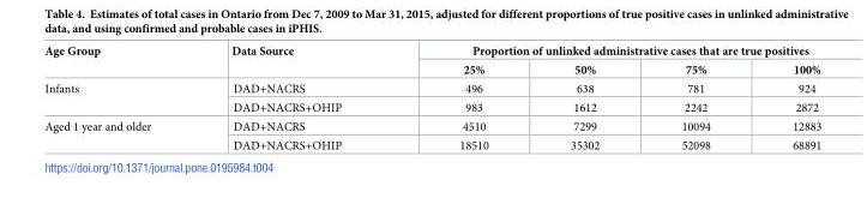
<table><thead><tr><td rowspan="2">Age Group</td><td rowspan="2">Data Source</td><td colspan="4">Proportion of unlinked administrative cases that are true positives</td></tr><tr><td>25%</td><td>50%</td><td>75%</td><td>100%</td></tr></thead><tbody><tr><td rowspan="2">Infants</td><td>DAD+NACRS</td><td>496</td><td>638</td><td>781</td><td>924</td></tr><tr><td>DAD+NACRS+OHIP</td><td>983</td><td>1612</td><td>2242</td><td>2872</td></tr><tr><td rowspan="2">Aged 1 year and older</td><td>DAD+NACRS</td><td>4510</td><td>7299</td><td>10094</td><td>12883</td></tr><tr><td>DAD+NACRS+OHIP</td><td>18510</td><td>35302</td><td>52098</td><td>68891</td></tr></tbody></table>